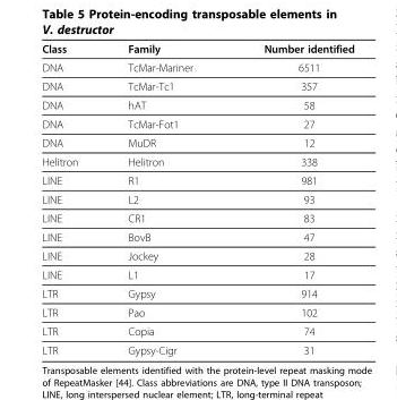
<table><thead><tr><td>Class</td><td>Family</td><td>Number identified</td></tr></thead><tbody><tr><td>DNA</td><td>TcMar-Mariner</td><td>6511</td></tr><tr><td>DNA</td><td>TcMar-Tc1</td><td>357</td></tr><tr><td>DNA</td><td>hAT</td><td>58</td></tr><tr><td>DNA</td><td>TcMar-Fot1</td><td>27</td></tr><tr><td>DNA</td><td>MuDR</td><td>12</td></tr><tr><td>Helitron</td><td>Helitron</td><td>338</td></tr><tr><td>LINE</td><td>R1</td><td>981</td></tr><tr><td>LINE</td><td>L2</td><td>93</td></tr><tr><td>LINE</td><td>CR1</td><td>83</td></tr><tr><td>LINE</td><td>BovB</td><td>47</td></tr><tr><td>LINE</td><td>Jockey</td><td>28</td></tr><tr><td>LINE</td><td>L1</td><td>17</td></tr><tr><td>LTR</td><td>Gypsy</td><td>914</td></tr><tr><td>LTR</td><td>Pao</td><td>102</td></tr><tr><td>LTR</td><td>Copia</td><td>74</td></tr><tr><td>LTR</td><td>Gypsy-Cigr</td><td>31</td></tr></tbody></table>